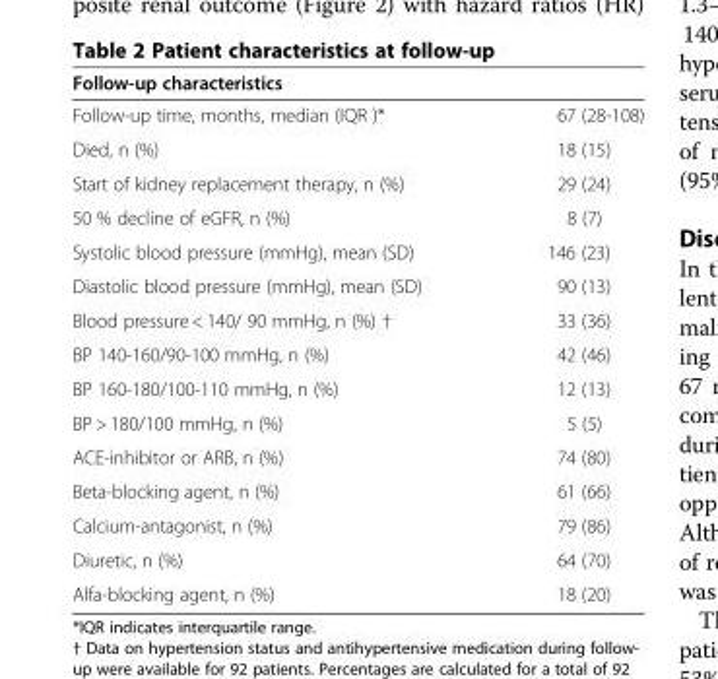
<table><thead><tr><td>Follow-up characteristics</td><td></td></tr></thead><tbody><tr><td>Follow-up time, months, median (IQR )*</td><td>67 (28-108)</td></tr><tr><td>Died, n (%)</td><td>18 (15)</td></tr><tr><td>Start of kidney replacement therapy, n (%)</td><td>29 (24)</td></tr><tr><td>50 % decline of eGFR, n (%)</td><td>8 (7)</td></tr><tr><td>Systolic blood pressure (mmHg), mean (SD)</td><td>146 (23)</td></tr><tr><td>Diastolic blood pressure (mmHg), mean (SD)</td><td>90 (13)</td></tr><tr><td>Blood pressure &lt; 140/ 90 mmHg, n (%) †</td><td>33 (36)</td></tr><tr><td>BP 140-160/90-100 mmHg, n (%)</td><td>42 (46)</td></tr><tr><td>BP 160-180/100-110 mmHg, n (%)</td><td>12 (13)</td></tr><tr><td>BP &gt; 180/100 mmHg, n (%)</td><td>5 (5)</td></tr><tr><td>ACE-inhibitor or ARB, n (%)</td><td>74 (80)</td></tr><tr><td>Beta-blocking agent, n (%)</td><td>61 (66)</td></tr><tr><td>Calcium-antagonist, n (%)</td><td>79 (86)</td></tr><tr><td>Diuretic, n (%)</td><td>64 (70)</td></tr><tr><td>Alfa-blocking agent, n (%)</td><td>18 (20)</td></tr></tbody></table>